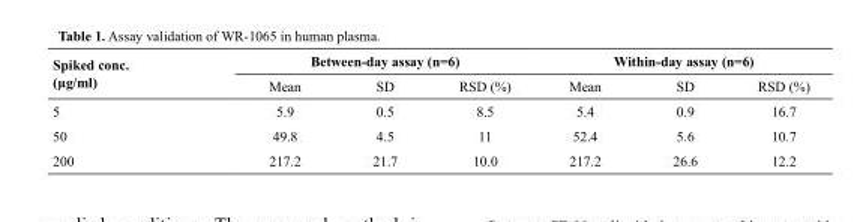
<table><thead><tr><td rowspan="2">Spiked conc. (µg/ml)</td><td colspan="3">Between-day assay (n=6)</td><td colspan="3">Within-day assay (n=6)</td></tr><tr><td>Mean</td><td>SD</td><td>RSD (%)</td><td>Mean</td><td>SD</td><td>RSD (%)</td></tr></thead><tbody><tr><td>5</td><td>5.9</td><td>0.5</td><td>8.5</td><td>5.4</td><td>0.9</td><td>16.7</td></tr><tr><td>50</td><td>49.8</td><td>4.5</td><td>11</td><td>52.4</td><td>5.6</td><td>10.7</td></tr><tr><td>200</td><td>217.2</td><td>21.7</td><td>10.0</td><td>217.2</td><td>26.6</td><td>12.2</td></tr></tbody></table>